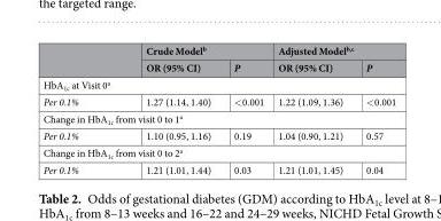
<table><thead><tr><td rowspan="2"></td><td colspan="2">Crude Model<sup>b</sup></td><td colspan="2">Adjusted Model<sup>b,c</sup></td></tr><tr><td>OR (95% CI)</td><td>P</td><td>OR (95% CI)</td><td>P</td></tr></thead><tbody><tr><td colspan="5">HbA<sub>1c</sub> at Visit 0<sup>a</sup></td></tr><tr><td>Per 0.1%</td><td>1.27 (1.14, 1.40)</td><td>&lt;0.001</td><td>1.22 (1.09, 1.36)</td><td>&lt;0.001</td></tr><tr><td colspan="5">Change in HbA<sub>1c</sub> from visit 0 to 1<sup>a</sup></td></tr><tr><td>Per 0.1%</td><td>1.10 (0.95, 1.16)</td><td>0.19</td><td>1.04 (0.90, 1.21)</td><td>0.57</td></tr><tr><td colspan="5">Change in HbA<sub>1c</sub> from visit 0 to 2<sup>a</sup></td></tr><tr><td>Per 0.1%</td><td>1.21 (1.01, 1.44)</td><td>0.03</td><td>1.21 (1.01, 1.45)</td><td>0.04</td></tr></tbody></table>